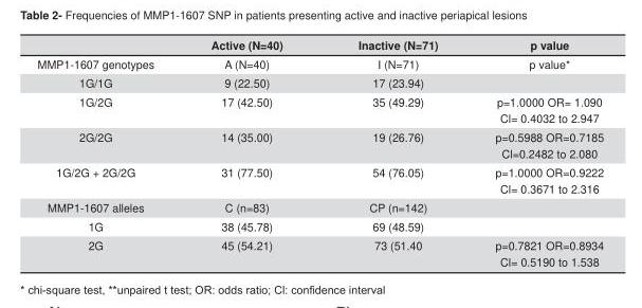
<table><thead><tr><td></td><td>Active (N=40)</td><td>Inactive (N=71)</td><td>p value</td></tr></thead><tbody><tr><td>MMP1-1607 genotypes</td><td>A (N=40)</td><td>I (N=71)</td><td>p value*</td></tr><tr><td>1G/1G</td><td>9 (22.50)</td><td>17 (23.94)</td><td></td></tr><tr><td>1G/2G</td><td>17 (42.50)</td><td>35 (49.29)</td><td>p=1.0000 OR= 1.090 Cl= 0.4032 to 2.947</td></tr><tr><td>2G/2G</td><td>14 (35.00)</td><td>19 (26.76)</td><td>p=0.5988 OR=0.7185 Cl=0.2482 to 2.080</td></tr><tr><td>1G/2G + 2G/2G</td><td>31 (77.50)</td><td>54 (76.05)</td><td>p=1.0000 OR=0.9222 Cl= 0.3671 to 2.316</td></tr><tr><td>MMP1-1607 alleles</td><td>C (n=83)</td><td>CP (n=142)</td><td></td></tr><tr><td>1G</td><td>38 (45.78)</td><td>69 (48.59)</td><td></td></tr><tr><td>2G</td><td>45 (54.21)</td><td>73 (51.40</td><td>p=0.7821 OR=0.8934 Cl= 0.5190 to 1.538</td></tr></tbody></table>